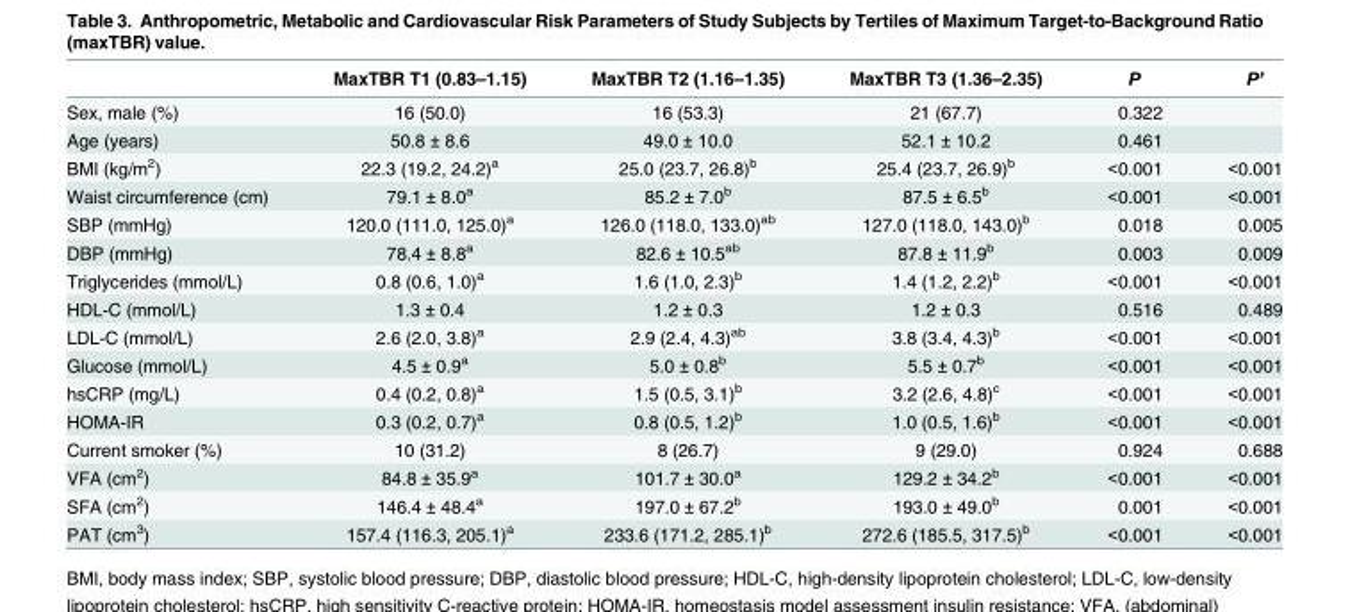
<table><thead><tr><td></td><td>MaxTBR T1 (0.83–1.15)</td><td>MaxTBR T2 (1.16–1.35)</td><td>MaxTBR T3 (1.36–2.35)</td><td>P</td><td>P’</td></tr></thead><tbody><tr><td>Sex, male (%)</td><td>16 (50.0)</td><td>16 (53.3)</td><td>21 (67.7)</td><td>0.322</td><td></td></tr><tr><td>Age (years)</td><td>50.8 ± 8.6</td><td>49.0 ± 10.0</td><td>52.1 ± 10.2</td><td>0.461</td><td></td></tr><tr><td>BMI (kg/m<sup>2</sup>)</td><td>22.3 (19.2, 24.2)<sup>a</sup></td><td>25.0 (23.7, 26.8)<sup>b</sup></td><td>25.4 (23.7, 26.9)<sup>b</sup></td><td>&lt;0.001</td><td>&lt;0.001</td></tr><tr><td>Waist circumference (cm)</td><td>79.1 ± 8.0<sup>a</sup></td><td>85.2 ± 7.0<sup>b</sup></td><td>87.5 ± 6.5<sup>b</sup></td><td>&lt;0.001</td><td>&lt;0.001</td></tr><tr><td>SBP (mmHg)</td><td>120.0 (111.0, 125.0)<sup>a</sup></td><td>126.0 (118.0, 133.0)<sup>ab</sup></td><td>127.0 (118.0, 143.0)<sup>b</sup></td><td>0.018</td><td>0.005</td></tr><tr><td>DBP (mmHg)</td><td>78.4 ± 8.8<sup>a</sup></td><td>82.6 ± 10.5<sup>ab</sup></td><td>87.8 ± 11.9<sup>b</sup></td><td>0.003</td><td>0.009</td></tr><tr><td>Triglycerides (mmol/L)</td><td>0.8 (0.6, 1.0)<sup>a</sup></td><td>1.6 (1.0, 2.3)<sup>b</sup></td><td>1.4 (1.2, 2.2)<sup>b</sup></td><td>&lt;0.001</td><td>&lt;0.001</td></tr><tr><td>HDL-C (mmol/L)</td><td>1.3 ± 0.4</td><td>1.2 ± 0.3</td><td>1.2 ± 0.3</td><td>0.516</td><td>0.489</td></tr><tr><td>LDL-C (mmol/L)</td><td>2.6 (2.0, 3.8)<sup>a</sup></td><td>2.9 (2.4, 4.3)<sup>ab</sup></td><td>3.8 (3.4, 4.3)<sup>b</sup></td><td>&lt;0.001</td><td>&lt;0.001</td></tr><tr><td>Glucose (mmol/L)</td><td>4.5 ± 0.9<sup>a</sup></td><td>5.0 ± 0.8<sup>b</sup></td><td>5.5 ± 0.7<sup>b</sup></td><td>&lt;0.001</td><td>&lt;0.001</td></tr><tr><td>hsCRP (mg/L)</td><td>0.4 (0.2, 0.8)<sup>a</sup></td><td>1.5 (0.5, 3.1)<sup>b</sup></td><td>3.2 (2.6, 4.8)<sup>c</sup></td><td>&lt;0.001</td><td>&lt;0.001</td></tr><tr><td>HOMA-IR</td><td>0.3 (0.2, 0.7)<sup>a</sup></td><td>0.8 (0.5, 1.2)<sup>b</sup></td><td>1.0 (0.5, 1.6)<sup>b</sup></td><td>&lt;0.001</td><td>&lt;0.001</td></tr><tr><td>Current smoker (%)</td><td>10 (31.2)</td><td>8 (26.7)</td><td>9 (29.0)</td><td>0.924</td><td>0.688</td></tr><tr><td>VFA (cm<sup>2</sup>)</td><td>84.8 ± 35.9<sup>a</sup></td><td>101.7 ± 30.0<sup>a</sup></td><td>129.2 ± 34.2<sup>b</sup></td><td>&lt;0.001</td><td>&lt;0.001</td></tr><tr><td>SFA (cm<sup>2</sup>)</td><td>146.4 ± 48.4<sup>a</sup></td><td>197.0 ± 67.2<sup>b</sup></td><td>193.0 ± 49.0<sup>b</sup></td><td>0.001</td><td>&lt;0.001</td></tr><tr><td>PAT (cm<sup>3</sup>)</td><td>157.4 (116.3, 205.1)<sup>a</sup></td><td>233.6 (171.2, 285.1)<sup>b</sup></td><td>272.6 (185.5, 317.5)<sup>b</sup></td><td>&lt;0.001</td><td>&lt;0.001</td></tr></tbody></table>